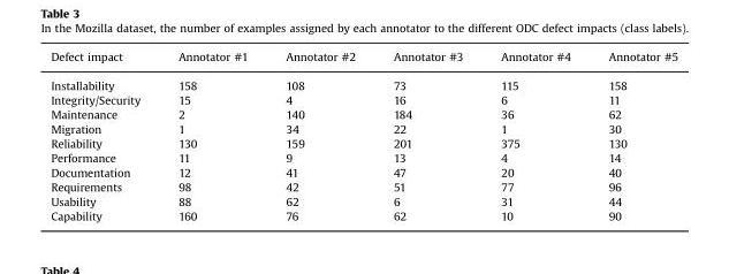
<table><thead><tr><td>Defect impact</td><td>Annotator #1</td><td>Annotator #2</td><td>Annotator #3</td><td>Annotator #4</td><td>Annotator #5</td></tr></thead><tbody><tr><td>Installability</td><td>158</td><td>108</td><td>73</td><td>115</td><td>158</td></tr><tr><td>Integrity/Security</td><td>15</td><td>4</td><td>16</td><td>6</td><td>11</td></tr><tr><td>Maintenance</td><td>2</td><td>140</td><td>184</td><td>36</td><td>62</td></tr><tr><td>Migration</td><td>1</td><td>34</td><td>22</td><td>1</td><td>30</td></tr><tr><td>Reliability</td><td>130</td><td>159</td><td>201</td><td>375</td><td>130</td></tr><tr><td>Performance</td><td>11</td><td>9</td><td>13</td><td>4</td><td>14</td></tr><tr><td>Documentation</td><td>12</td><td>41</td><td>47</td><td>20</td><td>40</td></tr><tr><td>Requirements</td><td>98</td><td>42</td><td>51</td><td>77</td><td>96</td></tr><tr><td>Usability</td><td>88</td><td>62</td><td>6</td><td>31</td><td>44</td></tr><tr><td>Capability</td><td>160</td><td>76</td><td>62</td><td>10</td><td>90</td></tr></tbody></table>